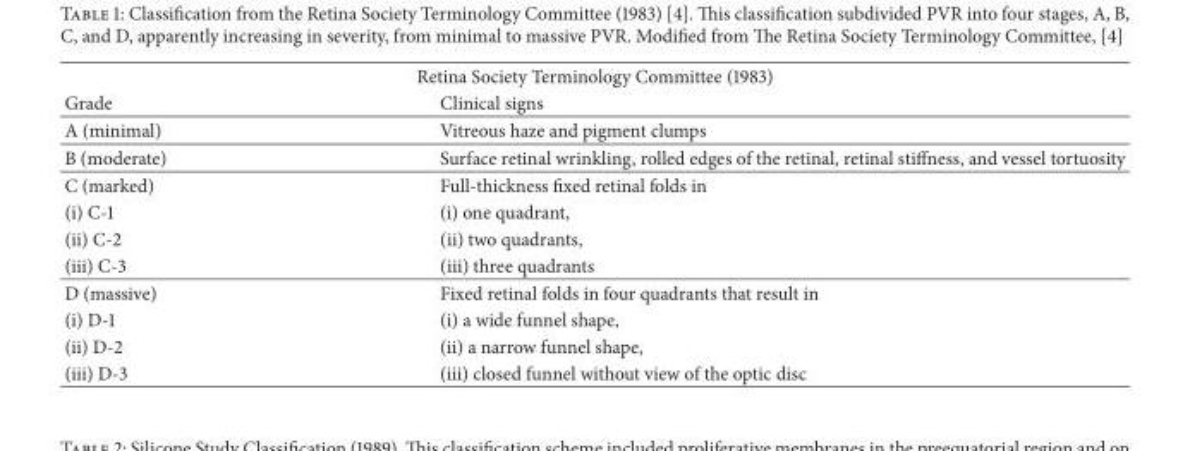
<table><thead><tr><td colspan="2">Retina Society Terminology Committee (1983)</td></tr><tr><td>Grade</td><td>Clinical signs</td></tr></thead><tbody><tr><td>A (minimal)</td><td>Vitreous haze and pigment clumps</td></tr><tr><td>B (moderate)</td><td>Surface retinal wrinkling, rolled edges of the retinal, retinal stiffness, and vessel tortuosity</td></tr><tr><td>C (marked)</td><td>Full-thickness fixed retinal folds in</td></tr><tr><td>(i) C-1</td><td>(i) one quadrant,</td></tr><tr><td>(ii) C-2</td><td>(ii) two quadrants,</td></tr><tr><td>(iii) C-3</td><td>(iii) three quadrants</td></tr><tr><td>D (massive)</td><td>Fixed retinal folds in four quadrants that result in</td></tr><tr><td>(i) D-1</td><td>(i) a wide funnel shape,</td></tr><tr><td>(ii) D-2</td><td>(ii) a narrow funnel shape,</td></tr><tr><td>(iii) D-3</td><td>(iii) closed funnel without view of the optic disc</td></tr></tbody></table>